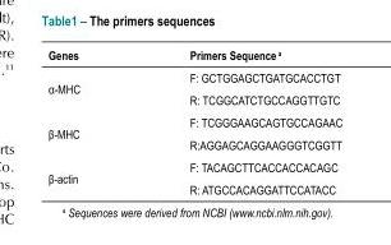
<table><thead><tr><td>Genes</td><td>Primers Sequence <sup>a</sup></td></tr></thead><tbody><tr><td rowspan="2">α-MHC</td><td>F: GCTGGAGCTGATGCACCTGT</td></tr><tr><td>R: TCGGCATCTGCCAGGTTGTC</td></tr><tr><td rowspan="2">β-MHC</td><td>F: TCGGGAAGCAGTGCCAGAAC</td></tr><tr><td>R:AGGAGCAGGAAGGGTCGGTT</td></tr><tr><td rowspan="2">β-actin</td><td>F: TACAGCTTCACCACCACAGC</td></tr><tr><td>R: ATGCCACAGGATTCCATACC</td></tr></tbody></table>